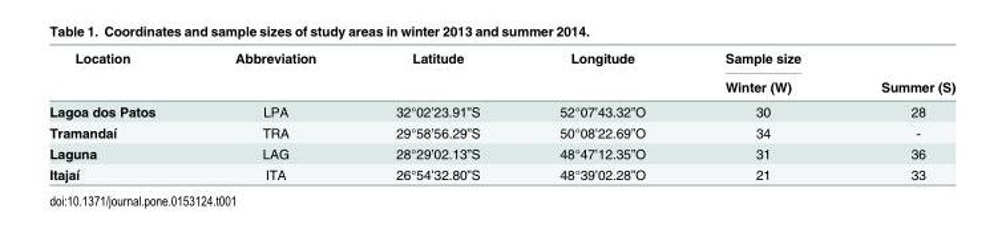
<table><thead><tr><td rowspan="2">Location</td><td rowspan="2">Abbreviation</td><td rowspan="2">Latitude</td><td rowspan="2">Longitude</td><td colspan="2">Sample size</td></tr><tr><td>Winter (W)</td><td>Summer (S)</td></tr></thead><tbody><tr><td>Lagoa dos Patos</td><td>LPA</td><td>32°02’23.91”S</td><td>52°07’43.32”O</td><td>30</td><td>28</td></tr><tr><td>Tramandaí</td><td>TRA</td><td>29°58’56.29”S</td><td>50°08’22.69”O</td><td>34</td><td>-</td></tr><tr><td>Laguna</td><td>LAG</td><td>28°29’02.13”S</td><td>48°47’12.35”O</td><td>31</td><td>36</td></tr><tr><td>Itajaí</td><td>ITA</td><td>26°54’32.80”S</td><td>48°39’02.28”O</td><td>21</td><td>33</td></tr></tbody></table>